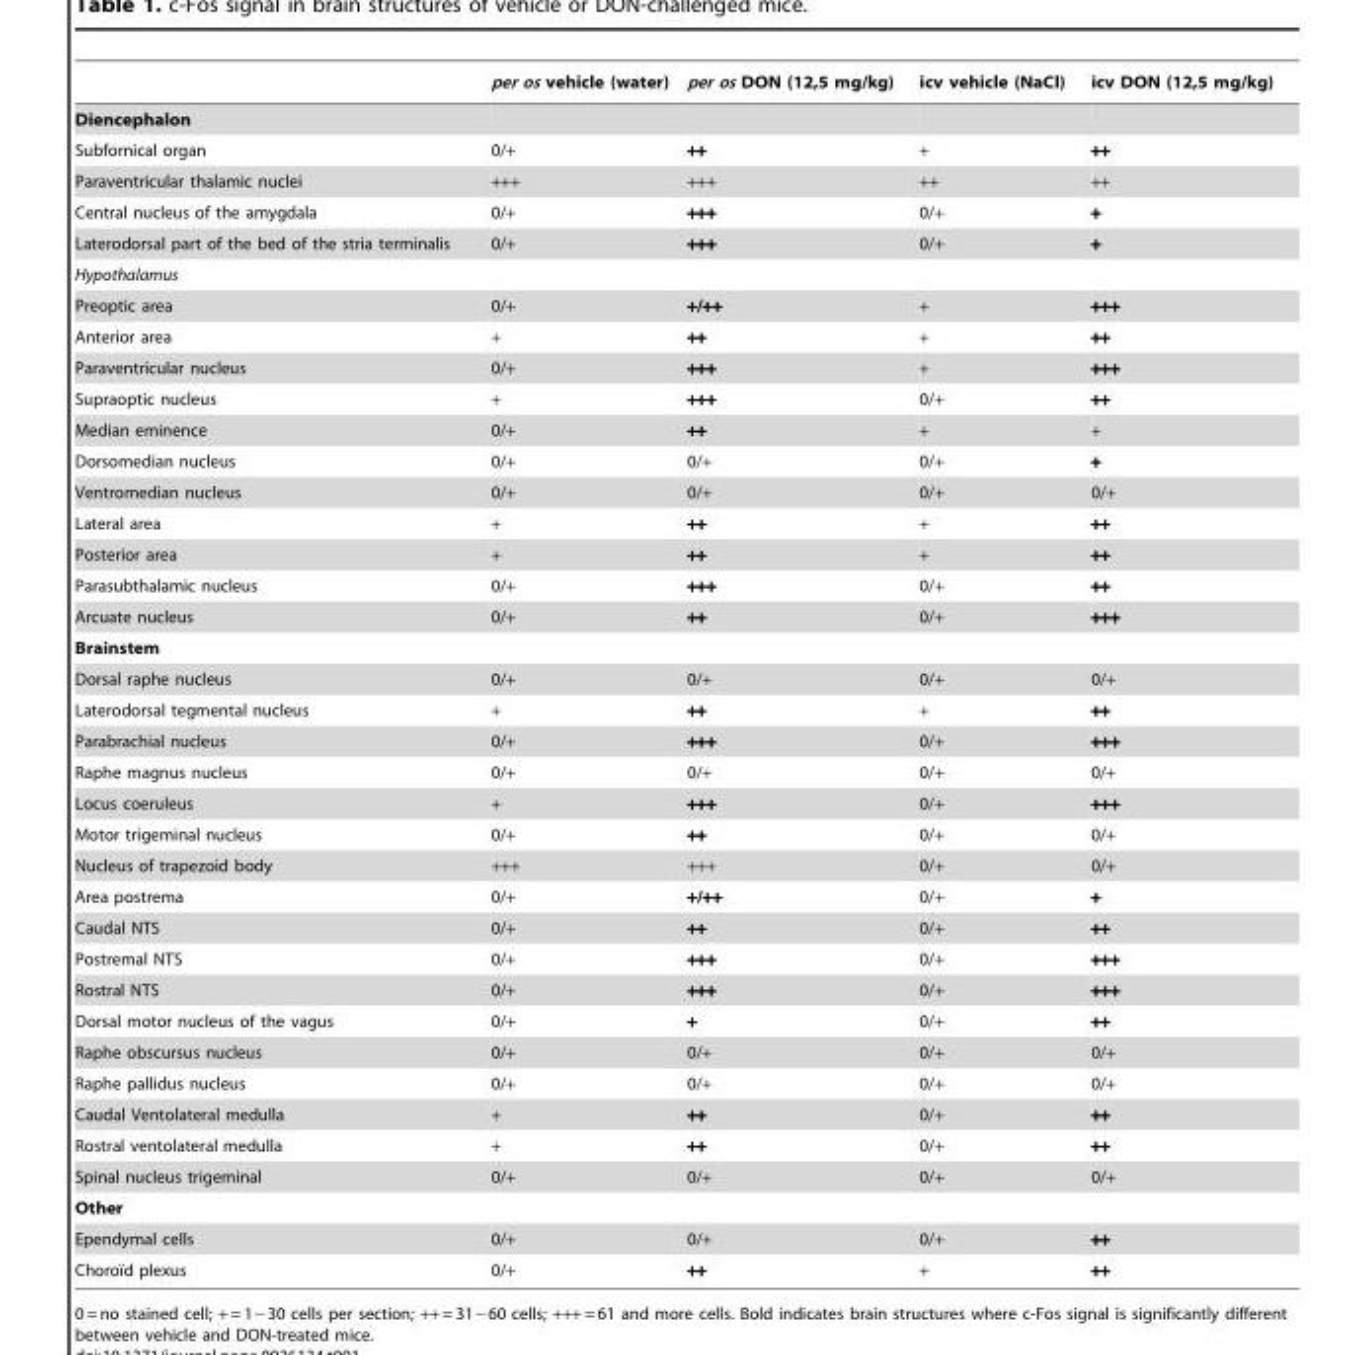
<table><thead><tr><td></td><td>per os vehicle (water)</td><td>per os DON (12,5 mg/kg)</td><td>icv vehicle (NaCl)</td><td>icv DON (12,5 mg/kg)</td></tr></thead><tbody><tr><td colspan="5">Diencephalon</td></tr><tr><td>Subfornical organ</td><td>0/+</td><td>+++</td><td>+</td><td>+++</td></tr><tr><td>Paraventricular thalamic nuclei</td><td>+++</td><td>+++</td><td>++</td><td>++</td></tr><tr><td>Central nucleus of the amygdala</td><td>0/+</td><td>++++</td><td>0/+</td><td>++</td></tr><tr><td>Laterodorsal part of the bed of the stria terminalis</td><td>0/+</td><td>++++</td><td>0/+</td><td>++</td></tr><tr><td colspan="5">Hypothalamus</td></tr><tr><td>Preoptic area</td><td>0/+</td><td>++/++</td><td>+</td><td>++++</td></tr><tr><td>Anterior area</td><td>+</td><td>+++</td><td>+</td><td>+++</td></tr><tr><td>Paraventricular nucleus</td><td>0/+</td><td>++++</td><td>+</td><td>++++</td></tr><tr><td>Supraoptic nucleus</td><td>+</td><td>++++</td><td>0/+</td><td>+++</td></tr><tr><td>Median eminence</td><td>0/+</td><td>+++</td><td>+</td><td>+</td></tr><tr><td>Dorsomedian nucleus</td><td>0/+</td><td>0/+</td><td>0/+</td><td>++</td></tr><tr><td>Ventromedian nucleus</td><td>0/+</td><td>0/+</td><td>0/+</td><td>0/+</td></tr><tr><td>Lateral area</td><td>+</td><td>+++</td><td>+</td><td>+++</td></tr><tr><td>Posterior area</td><td>+</td><td>+++</td><td>+</td><td>+++</td></tr><tr><td>Parasubthalamic nucleus</td><td>0/+</td><td>++++</td><td>0/+</td><td>+++</td></tr><tr><td>Arcuate nucleus</td><td>0/+</td><td>+++</td><td>0/+</td><td>++++</td></tr><tr><td colspan="5">Brainstem</td></tr><tr><td>Dorsal raphe nucleus</td><td>0/+</td><td>0/+</td><td>0/+</td><td>0/+</td></tr><tr><td>Laterodorsal tegmental nucleus</td><td>+</td><td>+++</td><td>+</td><td>+++</td></tr><tr><td>Parabrachial nucleus</td><td>0/+</td><td>++++</td><td>0/+</td><td>++++</td></tr><tr><td>Raphe magnus nucleus</td><td>0/+</td><td>0/+</td><td>0/+</td><td>0/+</td></tr><tr><td>Locus coeruleus</td><td>+</td><td>++++</td><td>0/+</td><td>++++</td></tr><tr><td>Motor trigeminal nucleus</td><td>0/+</td><td>+++</td><td>0/+</td><td>0/+</td></tr><tr><td>Nucleus of trapezoid body</td><td>+++</td><td>+++</td><td>0/+</td><td>0/+</td></tr><tr><td>Area postrema</td><td>0/+</td><td>++/++</td><td>0/+</td><td>++</td></tr><tr><td>Caudal NTS</td><td>0/+</td><td>+++</td><td>0/+</td><td>+++</td></tr><tr><td>Postremal NTS</td><td>0/+</td><td>++++</td><td>0/+</td><td>++++</td></tr><tr><td>Rostral NTS</td><td>0/+</td><td>++++</td><td>0/+</td><td>++++</td></tr><tr><td>Dorsal motor nucleus of the vagus</td><td>0/+</td><td>++</td><td>0/+</td><td>+++</td></tr><tr><td>Raphe obscursus nucleus</td><td>0/+</td><td>0/+</td><td>0/+</td><td>0/+</td></tr><tr><td>Raphe pallidus nucleus</td><td>0/+</td><td>0/+</td><td>0/+</td><td>0/+</td></tr><tr><td>Caudal Ventolateral medulla</td><td>+</td><td>+++</td><td>0/+</td><td>+++</td></tr><tr><td>Rostral ventolateral medulla</td><td>+</td><td>+++</td><td>0/+</td><td>+++</td></tr><tr><td>Spinal nucleus trigeminal</td><td>0/+</td><td>0/+</td><td>0/+</td><td>0/+</td></tr><tr><td colspan="5">Other</td></tr><tr><td>Ependymal cells</td><td>0/+</td><td>0/+</td><td>0/+</td><td>+++</td></tr><tr><td>Choroı¨d plexus</td><td>0/+</td><td>+++</td><td>+</td><td>+++</td></tr></tbody></table>